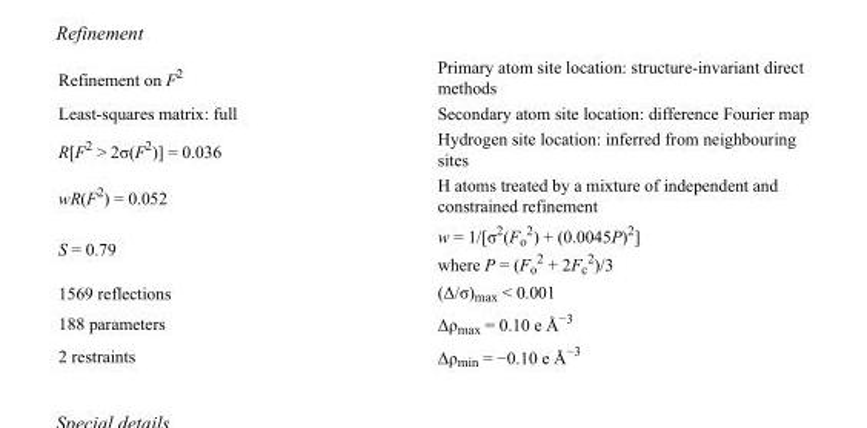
<table><tbody><tr><td>Refinement on F<sup>2</sup></td><td>Primary atom site location: structure-invariant direct methods</td></tr><tr><td>Least-squares matrix: full</td><td>Secondary atom site location: difference Fourier map</td></tr><tr><td>R[F<sup>2</sup> &gt; 2σ(F<sup>2</sup>)] = 0.036</td><td>Hydrogen site location: inferred from neighbouring sites</td></tr><tr><td>wR(F<sup>2</sup>) = 0.052</td><td>H atoms treated by a mixture of independent and constrained refinement</td></tr><tr><td>S = 0.79</td><td>w = 1/[σ<sup>2</sup>(F<sub>o</sub> <sup>2</sup>) + (0.0045P)<sup>2</sup>] where P = (F<sub>o</sub> <sup>2</sup> + 2F<sub>c</sub> <sup>2</sup>)/3</td></tr><tr><td>1569 reflections</td><td>(Δ/σ)<sub>max</sub> &lt; 0.001</td></tr><tr><td>188 parameters</td><td>Δρ<sub>max</sub> = 0.10 e Å<sup>−3</sup></td></tr><tr><td>2 restraints</td><td>Δρ<sub>min</sub> = −0.10 e Å<sup>−3</sup></td></tr></tbody></table>